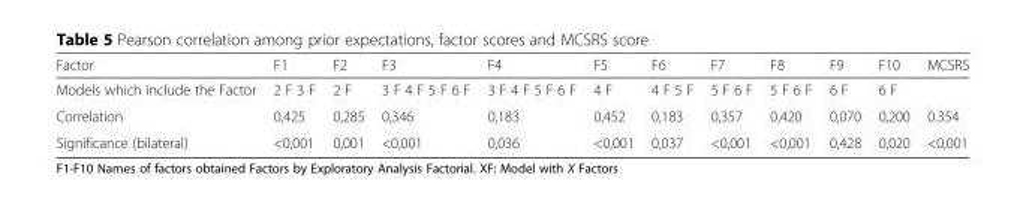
<table><thead><tr><td>Factor</td><td>F1</td><td>F2</td><td>F3</td><td>F4</td><td>F5</td><td>F6</td><td>F7</td><td>F8</td><td>F9</td><td>F10</td><td>MCSRS</td></tr></thead><tbody><tr><td>Models which include the Factor</td><td>2 F 3 F</td><td>2 F</td><td>3 F 4 F 5 F 6 F</td><td>3 F 4 F 5 F 6 F</td><td>4 F</td><td>4 F 5 F</td><td>5 F 6 F</td><td>5 F 6 F</td><td>6 F</td><td>6 F</td><td></td></tr><tr><td>Correlation</td><td>0,425</td><td>0,285</td><td>0,346</td><td>0,183</td><td>0,452</td><td>0,183</td><td>0,357</td><td>0,420</td><td>0,070</td><td>0,200</td><td>0.354</td></tr><tr><td>Significance (bilateral)</td><td>&lt;0,001</td><td>0,001</td><td>&lt;0,001</td><td>0,036</td><td>&lt;0,001</td><td>0,037</td><td>&lt;0,001</td><td>&lt;0,001</td><td>0,428</td><td>0,020</td><td>&lt;0,001</td></tr></tbody></table>